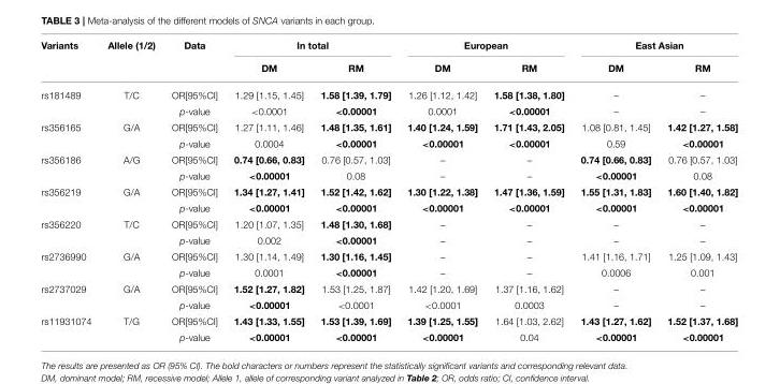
<table><thead><tr><td rowspan="2">Variants</td><td rowspan="2">Allele (1/2)</td><td rowspan="2">Data</td><td colspan="2">In total</td><td colspan="2">European</td><td colspan="2">East Asian</td></tr><tr><td>DM</td><td>RM</td><td>DM</td><td>RM</td><td>DM</td><td>RM</td></tr></thead><tbody><tr><td rowspan="2">rs181489</td><td>T/C</td><td>OR[95%CI]</td><td>1.29 [1.15, 1.45]</td><td>1.58 [1.39, 1.79]</td><td>1.26 [1.12, 1.42]</td><td>1.58 [1.38, 1.80]</td><td>–</td><td>–</td></tr><tr><td></td><td>p-value</td><td>&lt;0.0001</td><td>&lt;0.00001</td><td>0.0001</td><td>&lt;0.00001</td><td>–</td><td>–</td></tr><tr><td rowspan="2">rs356165</td><td>G/A</td><td>OR[95%CI]</td><td>1.27 [1.11, 1.46]</td><td>1.48 [1.35, 1.61]</td><td>1.40 [1.24, 1.59]</td><td>1.71 [1.43, 2.05]</td><td>1.08 [0.81, 1.45]</td><td>1.42 [1.27, 1.58]</td></tr><tr><td></td><td>p-value</td><td>0.0004</td><td>&lt;0.00001</td><td>&lt;0.00001</td><td>&lt;0.00001</td><td>0.59</td><td>&lt;0.00001</td></tr><tr><td rowspan="2">rs356186</td><td>A/G</td><td>OR[95%CI]</td><td>0.74 [0.66, 0.83]</td><td>0.76 [0.57, 1.03]</td><td>–</td><td>–</td><td>0.74 [0.66, 0.83]</td><td>0.76 [0.57, 1.03]</td></tr><tr><td></td><td>p-value</td><td>&lt;0.00001</td><td>0.08</td><td>–</td><td>–</td><td>&lt;0.00001</td><td>0.08</td></tr><tr><td rowspan="2">rs356219</td><td>G/A</td><td>OR[95%CI]</td><td>1.34 [1.27, 1.41]</td><td>1.52 [1.42, 1.62]</td><td>1.30 [1.22, 1.38]</td><td>1.47 [1.36, 1.59]</td><td>1.55 [1.31, 1.83]</td><td>1.60 [1.40, 1.82]</td></tr><tr><td></td><td>p-value</td><td>&lt;0.00001</td><td>&lt;0.00001</td><td>&lt;0.00001</td><td>&lt;0.00001</td><td>&lt;0.00001</td><td>&lt;0.00001</td></tr><tr><td rowspan="2">rs356220</td><td>T/C</td><td>OR[95%CI]</td><td>1.20 [1.07, 1.35]</td><td>1.48 [1.30, 1.68]</td><td>–</td><td>–</td><td>–</td><td>–</td></tr><tr><td></td><td>p-value</td><td>0.002</td><td>&lt;0.00001</td><td>–</td><td>–</td><td>–</td><td>–</td></tr><tr><td rowspan="2">rs2736990</td><td>G/A</td><td>OR[95%CI]</td><td>1.30 [1.14, 1.49]</td><td>1.30 [1.16, 1.45]</td><td>–</td><td>–</td><td>1.41 [1.16, 1.71]</td><td>1.25 [1.09, 1.43]</td></tr><tr><td></td><td>p-value</td><td>0.0001</td><td>&lt;0.00001</td><td>–</td><td>–</td><td>0.0006</td><td>0.001</td></tr><tr><td rowspan="2">rs2737029</td><td>G/A</td><td>OR[95%CI]</td><td>1.52 [1.27, 1.82]</td><td>1.53 [1.25, 1.87]</td><td>1.42 [1.20, 1.69]</td><td>1.37 [1.16, 1.62]</td><td>–</td><td>–</td></tr><tr><td></td><td>p-value</td><td>&lt;0.00001</td><td>&lt;0.0001</td><td>&lt;0.0001</td><td>0.0003</td><td>–</td><td>–</td></tr><tr><td rowspan="2">rs11931074</td><td>T/G</td><td>OR[95%CI]</td><td>1.43 [1.33, 1.55]</td><td>1.53 [1.39, 1.69]</td><td>1.39 [1.25, 1.55]</td><td>1.64 [1.03, 2.62]</td><td>1.43 [1.27, 1.62]</td><td>1.52 [1.37, 1.68]</td></tr><tr><td></td><td>p-value</td><td>&lt;0.00001</td><td>&lt;0.00001</td><td>&lt;0.00001</td><td>0.04</td><td>&lt;0.00001</td><td>&lt;0.00001</td></tr></tbody></table>